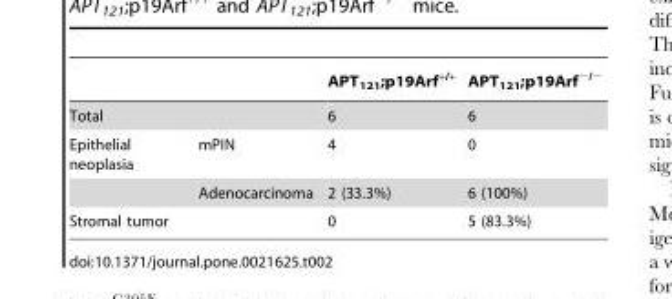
<table><thead><tr><td></td><td></td><td>APT<sub>121</sub>;p19Arf<sup>+/+</sup></td><td>APT<sub>121</sub>;p19Arf<sup>−/−</sup></td></tr></thead><tbody><tr><td colspan="2">Total</td><td>6</td><td>6</td></tr><tr><td rowspan="2">Epithelial neoplasia</td><td>mPIN</td><td>4</td><td>0</td></tr><tr><td>Adenocarcinoma</td><td>2 (33.3%)</td><td>6 (100%)</td></tr><tr><td colspan="2">Stromal tumor</td><td>0</td><td>5 (83.3%)</td></tr></tbody></table>